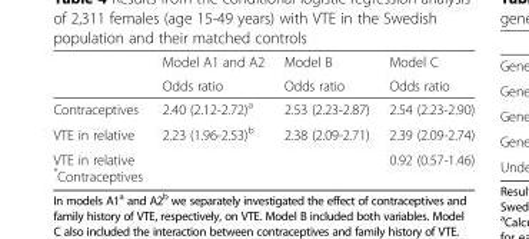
<table><thead><tr><td rowspan="2"></td><td rowspan="2">Model A1 and A2 Odds ratio</td><td rowspan="2">Model B Odds ratio</td><td rowspan="2">Model C Odds ratio</td></tr><tr></tr></thead><tbody><tr><td>Contraceptives</td><td>2.40 (2.12-2.72)<sup>a</sup></td><td>2.53 (2.23-2.87)</td><td>2.54 (2.23-2.90)</td></tr><tr><td>VTE in relative</td><td>2.23 (1.96-2.53)<sup>b</sup></td><td>2.38 (2.09-2.71)</td><td>2.39 (2.09-2.74)</td></tr><tr><td>VTE in relative *Contraceptives</td><td></td><td></td><td>0.92 (0.57-1.46)</td></tr></tbody></table>